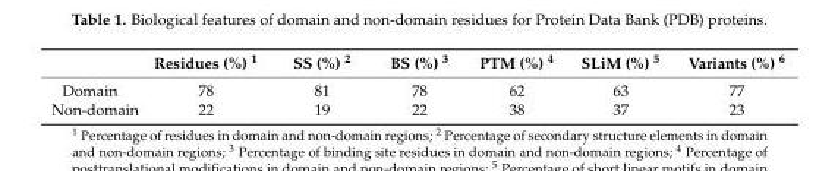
<table><thead><tr><td></td><td>Residues (%) <sup>1</sup></td><td>SS (%) <sup>2</sup></td><td>BS (%) <sup>3</sup></td><td>PTM (%) <sup>4</sup></td><td>SLiM (%) <sup>5</sup></td><td>Variants (%) <sup>6</sup></td></tr></thead><tbody><tr><td>Domain</td><td>78</td><td>81</td><td>78</td><td>62</td><td>63</td><td>77</td></tr><tr><td>Non-domain</td><td>22</td><td>19</td><td>22</td><td>38</td><td>37</td><td>23</td></tr></tbody></table>